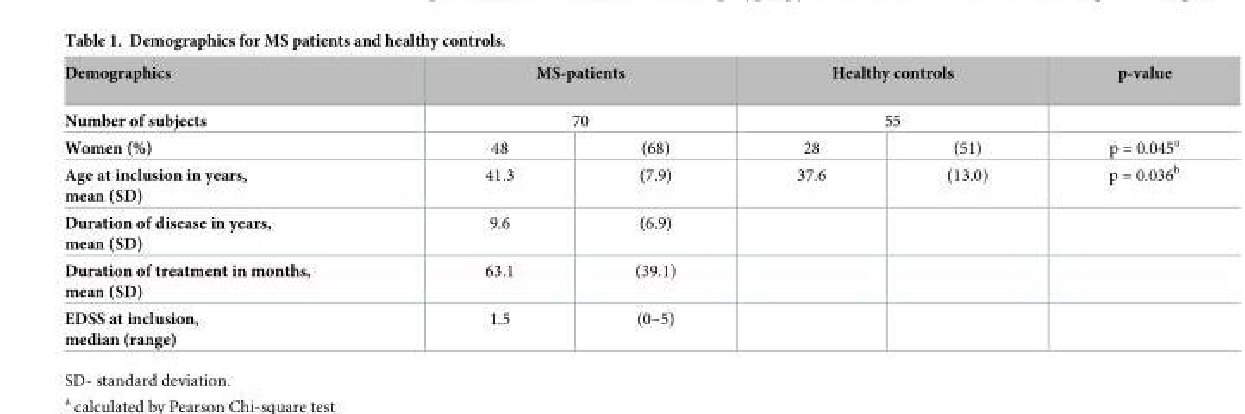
<table><thead><tr><td rowspan="3">Demographics Number of subjects Women (%)</td><td rowspan="2" colspan="2">MS-patients 70</td><td rowspan="2" colspan="2">Healthy controls 55</td><td rowspan="3">p-value p = 0.045<sup>a</sup></td></tr><tr></tr><tr><td>48</td><td>(68)</td><td>28</td><td>(51)</td></tr></thead><tbody><tr><td>Age at inclusion in years, mean (SD)</td><td>41.3</td><td>(7.9)</td><td>37.6</td><td>(13.0)</td><td>p = 0.036<sup>b</sup></td></tr><tr><td>Duration of disease in years, mean (SD)</td><td>9.6</td><td>(6.9)</td><td></td><td></td><td></td></tr><tr><td>Duration of treatment in months, mean (SD)</td><td>63.1</td><td>(39.1)</td><td></td><td></td><td></td></tr><tr><td>EDSS at inclusion, median (range)</td><td>1.5</td><td>(0–5)</td><td></td><td></td><td></td></tr></tbody></table>